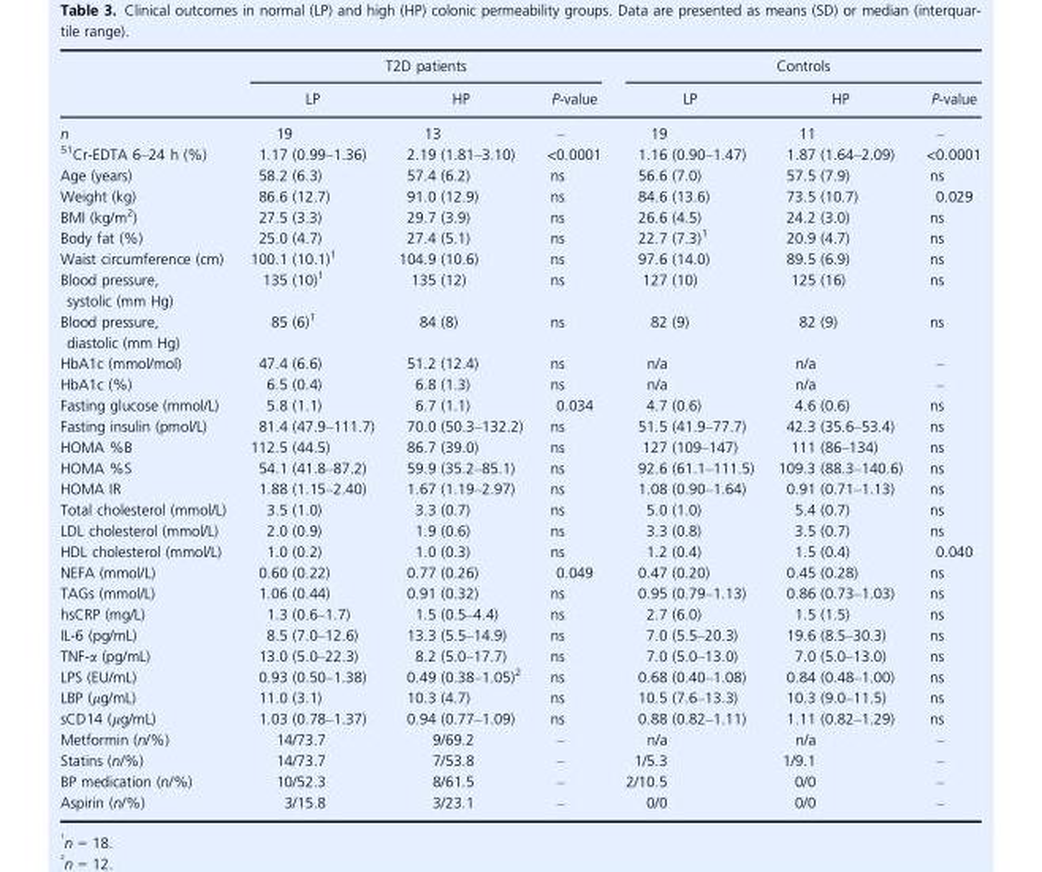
<table><thead><tr><td rowspan="2"></td><td colspan="3">T2D patients</td><td colspan="3">Controls</td></tr><tr><td>LP</td><td>HP</td><td>P-value</td><td>LP</td><td>HP</td><td>P-value</td></tr></thead><tbody><tr><td>n</td><td>19</td><td>13</td><td>–</td><td>19</td><td>11</td><td>–</td></tr><tr><td><sup>51</sup>Cr-EDTA 6–24 h (%)</td><td>1.17 (0.99–1.36)</td><td>2.19 (1.81–3.10)</td><td>&lt;0.0001</td><td>1.16 (0.90–1.47)</td><td>1.87 (1.64–2.09)</td><td>&lt;0.0001</td></tr><tr><td>Age (years)</td><td>58.2 (6.3)</td><td>57.4 (6.2)</td><td>ns</td><td>56.6 (7.0)</td><td>57.5 (7.9)</td><td>ns</td></tr><tr><td>Weight (kg)</td><td>86.6 (12.7)</td><td>91.0 (12.9)</td><td>ns</td><td>84.6 (13.6)</td><td>73.5 (10.7)</td><td>0.029</td></tr><tr><td>BMI (kg/m<sup>2</sup>)</td><td>27.5 (3.3)</td><td>29.7 (3.9)</td><td>ns</td><td>26.6 (4.5)</td><td>24.2 (3.0)</td><td>ns</td></tr><tr><td>Body fat (%)</td><td>25.0 (4.7)</td><td>27.4 (5.1)</td><td>ns</td><td>22.7 (7.3)1</td><td>20.9 (4.7)</td><td>ns</td></tr><tr><td>Waist circumference (cm)</td><td>100.1 (10.1)1</td><td>104.9 (10.6)</td><td>ns</td><td>97.6 (14.0)</td><td>89.5 (6.9)</td><td>ns</td></tr><tr><td>Blood pressure, systolic (mm Hg)</td><td>135 (10)1</td><td>135 (12)</td><td>ns</td><td>127 (10)</td><td>125 (16)</td><td>ns</td></tr><tr><td>Blood pressure, diastolic (mm Hg)</td><td>85 (6)1</td><td>84 (8)</td><td>ns</td><td>82 (9)</td><td>82 (9)</td><td>ns</td></tr><tr><td>HbA1c (mmol/mol)</td><td>47.4 (6.6)</td><td>51.2 (12.4)</td><td>ns</td><td>n/a</td><td>n/a</td><td>–</td></tr><tr><td>HbA1c (%)</td><td>6.5 (0.4)</td><td>6.8 (1.3)</td><td>ns</td><td>n/a</td><td>n/a</td><td>–</td></tr><tr><td>Fasting glucose (mmol/L)</td><td>5.8 (1.1)</td><td>6.7 (1.1)</td><td>0.034</td><td>4.7 (0.6)</td><td>4.6 (0.6)</td><td>ns</td></tr><tr><td>Fasting insulin (pmol/L)</td><td>81.4 (47.9–111.7)</td><td>70.0 (50.3–132.2)</td><td>ns</td><td>51.5 (41.9–77.7)</td><td>42.3 (35.6–53.4)</td><td>ns</td></tr><tr><td>HOMA %B</td><td>112.5 (44.5)</td><td>86.7 (39.0)</td><td>ns</td><td>127 (109–147)</td><td>111 (86–134)</td><td>ns</td></tr><tr><td>HOMA %S</td><td>54.1 (41.8–87.2)</td><td>59.9 (35.2–85.1)</td><td>ns</td><td>92.6 (61.1–111.5)</td><td>109.3 (88.3–140.6)</td><td>ns</td></tr><tr><td>HOMA IR</td><td>1.88 (1.15–2.40)</td><td>1.67 (1.19–2.97)</td><td>ns</td><td>1.08 (0.90–1.64)</td><td>0.91 (0.71–1.13)</td><td>ns</td></tr><tr><td>Total cholesterol (mmol/L)</td><td>3.5 (1.0)</td><td>3.3 (0.7)</td><td>ns</td><td>5.0 (1.0)</td><td>5.4 (0.7)</td><td>ns</td></tr><tr><td>LDL cholesterol (mmol/L)</td><td>2.0 (0.9)</td><td>1.9 (0.6)</td><td>ns</td><td>3.3 (0.8)</td><td>3.5 (0.7)</td><td>ns</td></tr><tr><td>HDL cholesterol (mmol/L)</td><td>1.0 (0.2)</td><td>1.0 (0.3)</td><td>ns</td><td>1.2 (0.4)</td><td>1.5 (0.4)</td><td>0.040</td></tr><tr><td>NEFA (mmol/L)</td><td>0.60 (0.22)</td><td>0.77 (0.26)</td><td>0.049</td><td>0.47 (0.20)</td><td>0.45 (0.28)</td><td>ns</td></tr><tr><td>TAGs (mmol/L)</td><td>1.06 (0.44)</td><td>0.91 (0.32)</td><td>ns</td><td>0.95 (0.79–1.13)</td><td>0.86 (0.73–1.03)</td><td>ns</td></tr><tr><td>hsCRP (mg/L)</td><td>1.3 (0.6–1.7)</td><td>1.5 (0.5–4.4)</td><td>ns</td><td>2.7 (6.0)</td><td>1.5 (1.5)</td><td>ns</td></tr><tr><td>IL-6 (pg/mL)</td><td>8.5 (7.0–12.6)</td><td>13.3 (5.5–14.9)</td><td>ns</td><td>7.0 (5.5–20.3)</td><td>19.6 (8.5–30.3)</td><td>ns</td></tr><tr><td>TNF-α (pg/mL)</td><td>13.0 (5.0–22.3)</td><td>8.2 (5.0–17.7)</td><td>ns</td><td>7.0 (5.0–13.0)</td><td>7.0 (5.0–13.0)</td><td>ns</td></tr><tr><td>LPS (EU/mL)</td><td>0.93 (0.50–1.38)</td><td>0.49 (0.38–1.05)2</td><td>ns</td><td>0.68 (0.40–1.08)</td><td>0.84 (0.48–1.00)</td><td>ns</td></tr><tr><td>LBP (μg/mL)</td><td>11.0 (3.1)</td><td>10.3 (4.7)</td><td>ns</td><td>10.5 (7.6–13.3)</td><td>10.3 (9.0–11.5)</td><td>ns</td></tr><tr><td>sCD14 (μg/mL)</td><td>1.03 (0.78–1.37)</td><td>0.94 (0.77–1.09)</td><td>ns</td><td>0.88 (0.82–1.11)</td><td>1.11 (0.82–1.29)</td><td>ns</td></tr><tr><td>Metformin (n/%)</td><td>14/73.7</td><td>9/69.2</td><td>–</td><td>n/a</td><td>n/a</td><td>–</td></tr><tr><td>Statins (n/%)</td><td>14/73.7</td><td>7/53.8</td><td>–</td><td>1/5.3</td><td>1/9.1</td><td>–</td></tr><tr><td>BP medication (n/%)</td><td>10/52.3</td><td>8/61.5</td><td>–</td><td>2/10.5</td><td>0/0</td><td>–</td></tr><tr><td>Aspirin (n/%)</td><td>3/15.8</td><td>3/23.1</td><td>–</td><td>0/0</td><td>0/0</td><td>–</td></tr></tbody></table>